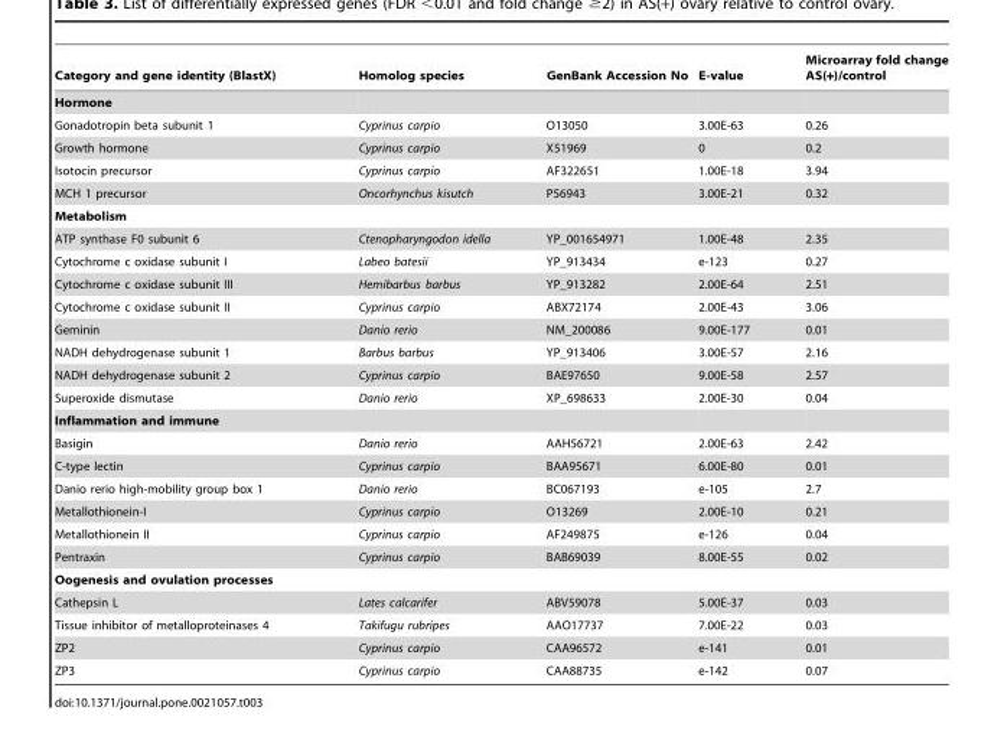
<table><thead><tr><td>Category and gene identity (BlastX)</td><td>Homolog species</td><td>GenBank Accession No</td><td>E-value</td><td>Microarray fold change AS(+)/control</td></tr></thead><tbody><tr><td colspan="5">Hormone</td></tr><tr><td>Gonadotropin beta subunit 1</td><td>Cyprinus carpio</td><td>O13050</td><td>3.00E-63</td><td>0.26</td></tr><tr><td>Growth hormone</td><td>Cyprinus carpio</td><td>X51969</td><td>0</td><td>0.2</td></tr><tr><td>Isotocin precursor</td><td>Cyprinus carpio</td><td>AF322651</td><td>1.00E-18</td><td>3.94</td></tr><tr><td>MCH 1 precursor</td><td>Oncorhynchus kisutch</td><td>P56943</td><td>3.00E-21</td><td>0.32</td></tr><tr><td colspan="5">Metabolism</td></tr><tr><td>ATP synthase F0 subunit 6</td><td>Ctenopharyngodon idella</td><td>YP_001654971</td><td>1.00E-48</td><td>2.35</td></tr><tr><td>Cytochrome c oxidase subunit I</td><td>Labeo batesii</td><td>YP_913434</td><td>e-123</td><td>0.27</td></tr><tr><td>Cytochrome c oxidase subunit III</td><td>Hemibarbus barbus</td><td>YP_913282</td><td>2.00E-64</td><td>2.51</td></tr><tr><td>Cytochrome c oxidase subunit II</td><td>Cyprinus carpio</td><td>ABX72174</td><td>2.00E-43</td><td>3.06</td></tr><tr><td>Geminin</td><td>Danio rerio</td><td>NM_200086</td><td>9.00E-177</td><td>0.01</td></tr><tr><td>NADH dehydrogenase subunit 1</td><td>Barbus barbus</td><td>YP_913406</td><td>3.00E-57</td><td>2.16</td></tr><tr><td>NADH dehydrogenase subunit 2</td><td>Cyprinus carpio</td><td>BAE97650</td><td>9.00E-58</td><td>2.57</td></tr><tr><td>Superoxide dismutase</td><td>Danio rerio</td><td>XP_698633</td><td>2.00E-30</td><td>0.04</td></tr><tr><td colspan="5">Inflammation and immune</td></tr><tr><td>Basigin</td><td>Danio rerio</td><td>AAH56721</td><td>2.00E-63</td><td>2.42</td></tr><tr><td>C-type lectin</td><td>Cyprinus carpio</td><td>BAA95671</td><td>6.00E-80</td><td>0.01</td></tr><tr><td>Danio rerio high-mobility group box 1</td><td>Danio rerio</td><td>BC067193</td><td>e-105</td><td>2.7</td></tr><tr><td>Metallothionein-I</td><td>Cyprinus carpio</td><td>O13269</td><td>2.00E-10</td><td>0.21</td></tr><tr><td>Metallothionein II</td><td>Cyprinus carpio</td><td>AF249875</td><td>e-126</td><td>0.04</td></tr><tr><td>Pentraxin</td><td>Cyprinus carpio</td><td>BAB69039</td><td>8.00E-55</td><td>0.02</td></tr><tr><td colspan="5">Oogenesis and ovulation processes</td></tr><tr><td>Cathepsin L</td><td>Lates calcarifer</td><td>ABV59078</td><td>5.00E-37</td><td>0.03</td></tr><tr><td>Tissue inhibitor of metalloproteinases 4</td><td>Takifugu rubripes</td><td>AAO17737</td><td>7.00E-22</td><td>0.03</td></tr><tr><td>ZP2</td><td>Cyprinus carpio</td><td>CAA96572</td><td>e-141</td><td>0.01</td></tr><tr><td>ZP3</td><td>Cyprinus carpio</td><td>CAA88735</td><td>e-142</td><td>0.07</td></tr></tbody></table>